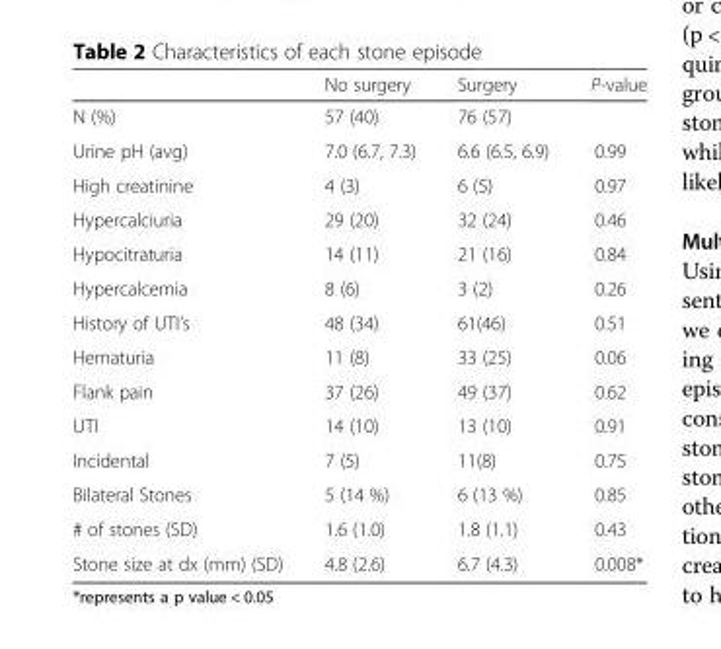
<table><thead><tr><td></td><td>No surgery</td><td>Surgery</td><td>P-value</td></tr></thead><tbody><tr><td>N (%)</td><td>57 (40)</td><td>76 (57)</td><td></td></tr><tr><td>Urine pH (avg)</td><td>7.0 (6.7, 7.3)</td><td>6.6 (6.5, 6.9)</td><td>0.99</td></tr><tr><td>High creatinine</td><td>4 (3)</td><td>6 (5)</td><td>0.97</td></tr><tr><td>Hypercalciuria</td><td>29 (20)</td><td>32 (24)</td><td>0.46</td></tr><tr><td>Hypocitraturia</td><td>14 (11)</td><td>21 (16)</td><td>0.84</td></tr><tr><td>Hypercalcemia</td><td>8 (6)</td><td>3 (2)</td><td>0.26</td></tr><tr><td>History of UTI’s</td><td>48 (34)</td><td>61(46)</td><td>0.51</td></tr><tr><td>Hematuria</td><td>11 (8)</td><td>33 (25)</td><td>0.06</td></tr><tr><td>Flank pain</td><td>37 (26)</td><td>49 (37)</td><td>0.62</td></tr><tr><td>UTI</td><td>14 (10)</td><td>13 (10)</td><td>0.91</td></tr><tr><td>Incidental</td><td>7 (5)</td><td>11(8)</td><td>0.75</td></tr><tr><td>Bilateral Stones</td><td>5 (14 %)</td><td>6 (13 %)</td><td>0.85</td></tr><tr><td># of stones (SD)</td><td>1.6 (1.0)</td><td>1.8 (1.1)</td><td>0.43</td></tr><tr><td>Stone size at dx (mm) (SD)</td><td>4.8 (2.6)</td><td>6.7 (4.3)</td><td>0.008*</td></tr></tbody></table>